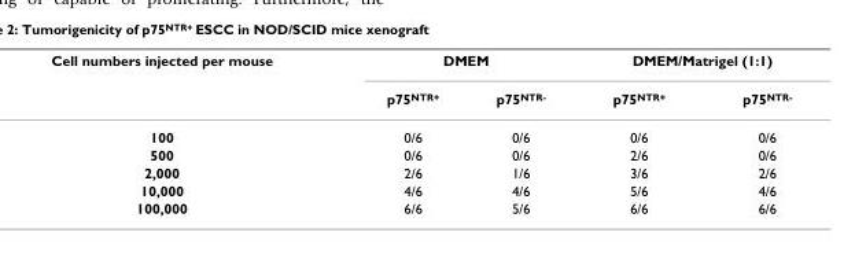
<table><thead><tr><td rowspan="2">Cell numbers injected per mouse</td><td colspan="2">DMEM</td><td colspan="2">DMEM/Matrigel (1:1)</td></tr><tr><td>p75<sup>NTR+</sup></td><td>p75<sup>NTR-</sup></td><td>p75<sup>NTR+</sup></td><td>p75<sup>NTR-</sup></td></tr></thead><tbody><tr><td>100</td><td>0/6</td><td>0/6</td><td>0/6</td><td>0/6</td></tr><tr><td>500</td><td>0/6</td><td>0/6</td><td>2/6</td><td>0/6</td></tr><tr><td>2,000</td><td>2/6</td><td>1/6</td><td>3/6</td><td>2/6</td></tr><tr><td>10,000</td><td>4/6</td><td>4/6</td><td>5/6</td><td>4/6</td></tr><tr><td>100,000</td><td>6/6</td><td>5/6</td><td>6/6</td><td>6/6</td></tr></tbody></table>